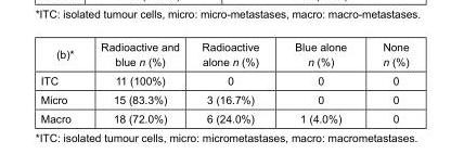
<table><thead><tr><td>(b)*</td><td>Radioactive and blue n (%)</td><td>Radioactive alone n (%)</td><td>Blue alone n (%)</td><td>None n (%)</td></tr></thead><tbody><tr><td>ITC</td><td>11 (100%)</td><td>0</td><td>0</td><td>0</td></tr><tr><td>Micro</td><td>15 (83.3%)</td><td>3 (16.7%)</td><td>0</td><td>0</td></tr><tr><td>Macro</td><td>18 (72.0%)</td><td>6 (24.0%)</td><td>1 (4.0%)</td><td>0</td></tr></tbody></table>